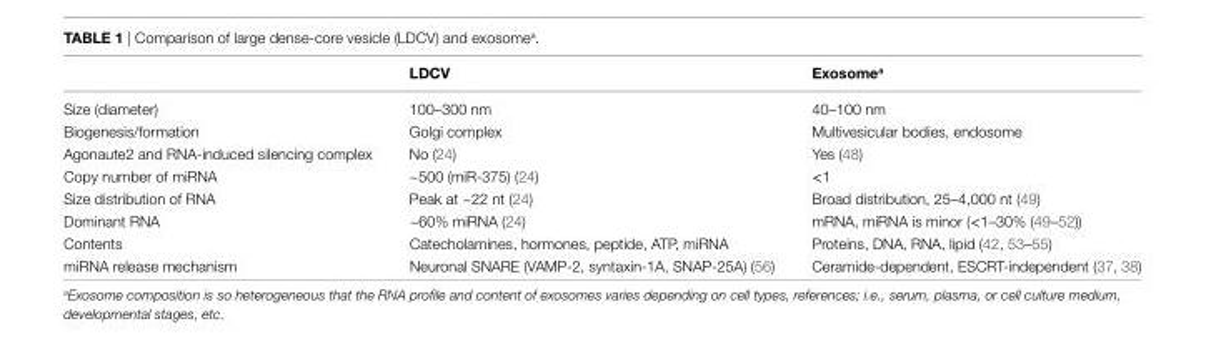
<table><thead><tr><td></td><td>LDCv</td><td>exosome<sup>a</sup></td></tr></thead><tbody><tr><td>Size (diameter)</td><td>100–300 nm</td><td>40–100 nm</td></tr><tr><td>Biogenesis/formation</td><td>Golgi complex</td><td>Multivesicular bodies, endosome</td></tr><tr><td>Agonaute2 and RNA-induced silencing complex</td><td>No (24)</td><td>Yes (48)</td></tr><tr><td>Copy number of miRNA</td><td>~500 (miR-375) (24)</td><td>&lt;1</td></tr><tr><td>Size distribution of RNA</td><td>Peak at ~22 nt (24)</td><td>Broad distribution, 25–4,000 nt (49)</td></tr><tr><td>Dominant RNA</td><td>~60% miRNA (24)</td><td>mRNA, miRNA is minor (&lt;1–30% (49–52))</td></tr><tr><td>Contents</td><td>Catecholamines, hormones, peptide, ATP, miRNA</td><td>Proteins, DNA, RNA, lipid (42, 53–55)</td></tr><tr><td>miRNA release mechanism</td><td>Neuronal SNARE (VAMP-2, syntaxin-1A, SNAP-25A) (56)</td><td>Ceramide-dependent, ESCRT-independent (37, 38)</td></tr></tbody></table>